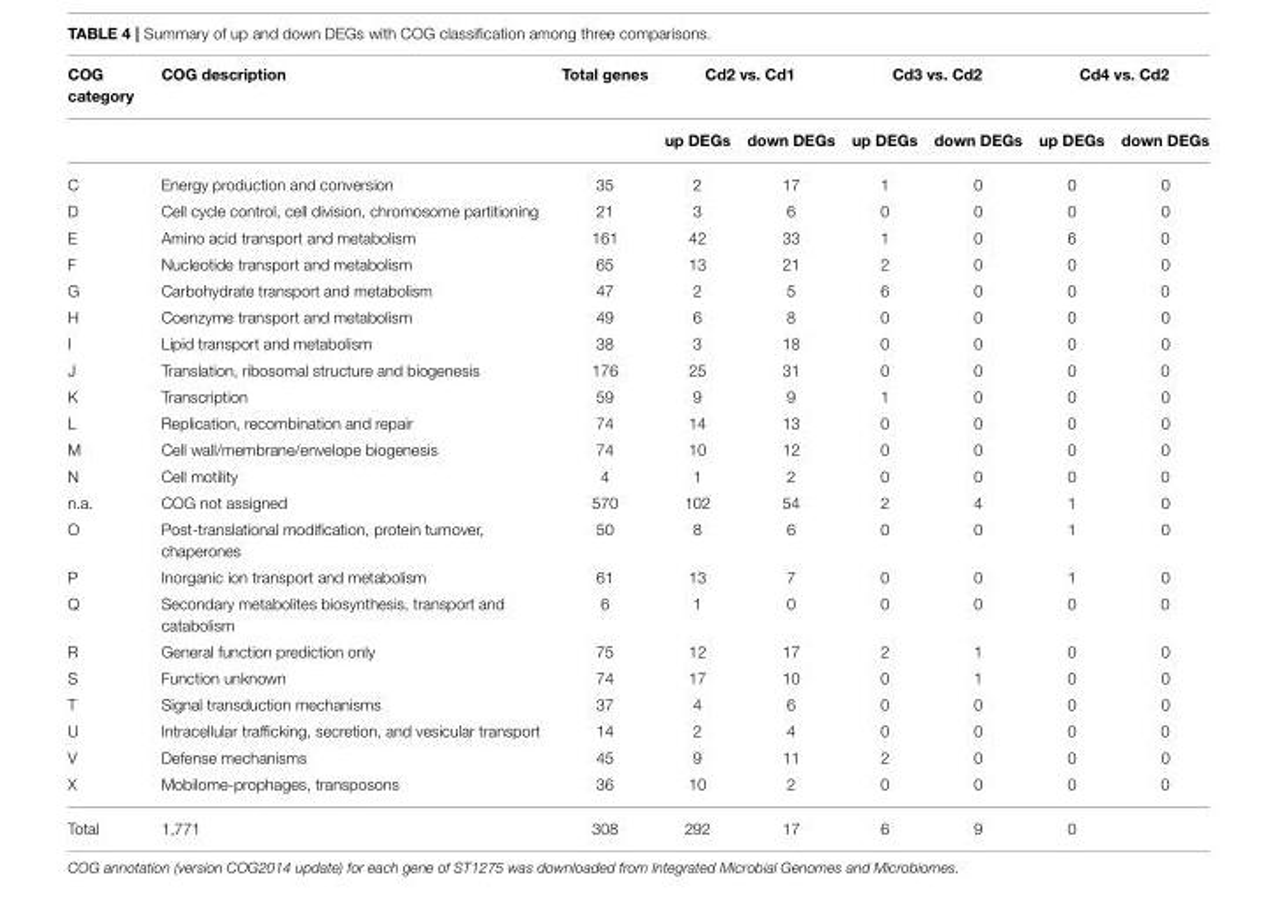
<table><thead><tr><td rowspan="2">COG category</td><td rowspan="2">COG description</td><td rowspan="2">Total genes</td><td colspan="2">Cd2 vs. Cd1</td><td colspan="2">Cd3 vs. Cd2</td><td colspan="2">Cd4 vs. Cd2</td></tr><tr><td>up DEGs</td><td>down DEGs</td><td>up DEGs</td><td>down DEGs</td><td>up DEGs</td><td>down DEGs</td></tr></thead><tbody><tr><td>C</td><td>Energy production and conversion</td><td>35</td><td>2</td><td>17</td><td>1</td><td>0</td><td>0</td><td>0</td></tr><tr><td>D</td><td>Cell cycle control, cell division, chromosome partitioning</td><td>21</td><td>3</td><td>6</td><td>0</td><td>0</td><td>0</td><td>0</td></tr><tr><td>E</td><td>Amino acid transport and metabolism</td><td>161</td><td>42</td><td>33</td><td>1</td><td>0</td><td>6</td><td>0</td></tr><tr><td>F</td><td>Nucleotide transport and metabolism</td><td>65</td><td>13</td><td>21</td><td>2</td><td>0</td><td>0</td><td>0</td></tr><tr><td>G</td><td>Carbohydrate transport and metabolism</td><td>47</td><td>2</td><td>5</td><td>6</td><td>0</td><td>0</td><td>0</td></tr><tr><td>H</td><td>Coenzyme transport and metabolism</td><td>49</td><td>6</td><td>8</td><td>0</td><td>0</td><td>0</td><td>0</td></tr><tr><td>I</td><td>Lipid transport and metabolism</td><td>38</td><td>3</td><td>18</td><td>0</td><td>0</td><td>0</td><td>0</td></tr><tr><td>J</td><td>Translation, ribosomal structure and biogenesis</td><td>176</td><td>25</td><td>31</td><td>0</td><td>0</td><td>0</td><td>0</td></tr><tr><td>K</td><td>Transcription</td><td>59</td><td>9</td><td>9</td><td>1</td><td>0</td><td>0</td><td>0</td></tr><tr><td>L</td><td>Replication, recombination and repair</td><td>74</td><td>14</td><td>13</td><td>0</td><td>0</td><td>0</td><td>0</td></tr><tr><td>M</td><td>Cell wall/membrane/envelope biogenesis</td><td>74</td><td>10</td><td>12</td><td>0</td><td>0</td><td>0</td><td>0</td></tr><tr><td>N</td><td>Cell motility</td><td>4</td><td>1</td><td>2</td><td>0</td><td>0</td><td>0</td><td>0</td></tr><tr><td>n.a.</td><td>COG not assigned</td><td>570</td><td>102</td><td>54</td><td>2</td><td>4</td><td>1</td><td>0</td></tr><tr><td>O</td><td>Post-translational modification, protein turnover, chaperones</td><td>50</td><td>8</td><td>6</td><td>0</td><td>0</td><td>1</td><td>0</td></tr><tr><td>P</td><td>Inorganic ion transport and metabolism</td><td>61</td><td>13</td><td>7</td><td>0</td><td>0</td><td>1</td><td>0</td></tr><tr><td>Q</td><td>Secondary metabolites biosynthesis, transport and catabolism</td><td>6</td><td>1</td><td>0</td><td>0</td><td>0</td><td>0</td><td>0</td></tr><tr><td>R</td><td>General function prediction only</td><td>75</td><td>12</td><td>17</td><td>2</td><td>1</td><td>0</td><td>0</td></tr><tr><td>S</td><td>Function unknown</td><td>74</td><td>17</td><td>10</td><td>0</td><td>1</td><td>0</td><td>0</td></tr><tr><td>T</td><td>Signal transduction mechanisms</td><td>37</td><td>4</td><td>6</td><td>0</td><td>0</td><td>0</td><td>0</td></tr><tr><td>U</td><td>Intracellular trafficking, secretion, and vesicular transport</td><td>14</td><td>2</td><td>4</td><td>0</td><td>0</td><td>0</td><td>0</td></tr><tr><td>V</td><td>Defense mechanisms</td><td>45</td><td>9</td><td>11</td><td>2</td><td>0</td><td>0</td><td>0</td></tr><tr><td>X</td><td>Mobilome-prophages, transposons</td><td>36</td><td>10</td><td>2</td><td>0</td><td>0</td><td>0</td><td>0</td></tr><tr><td>Total</td><td>1,771</td><td>308</td><td>292</td><td>17</td><td>6</td><td>9</td><td>0</td><td></td></tr></tbody></table>